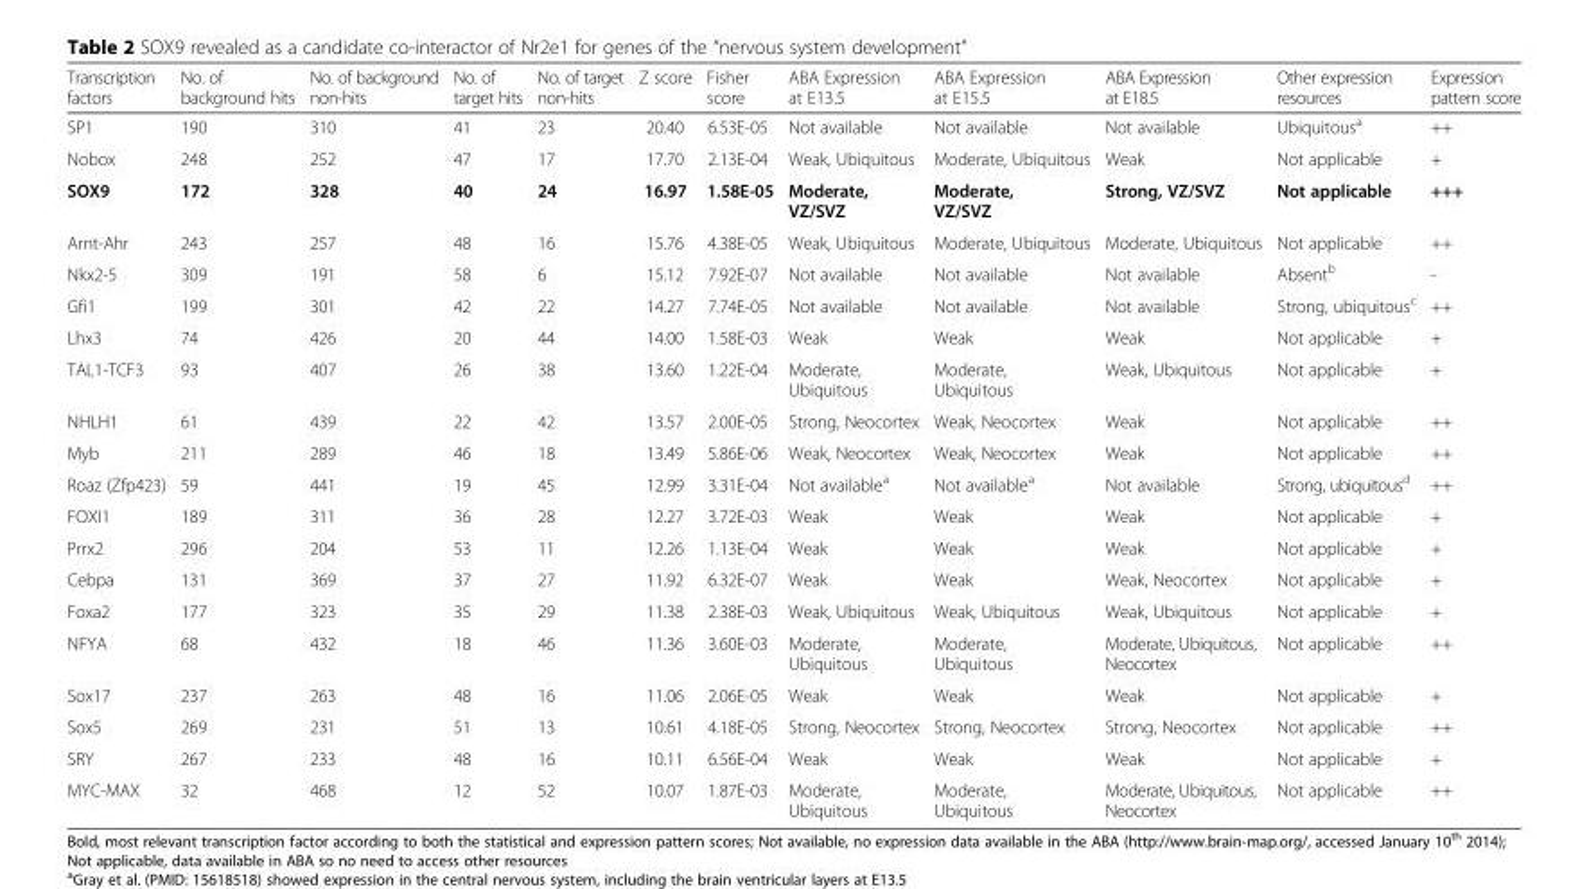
<table><thead><tr><td>Transcription factors</td><td>No. of background hits</td><td>No. of background non-hits</td><td>No. of target hits</td><td>No. of target non-hits</td><td>Z score</td><td>Fisher score</td><td>ABA Expression at E13.5</td><td>ABA Expression at E15.5</td><td>ABA Expression at E18.5</td><td>Other expression resources</td><td>Expression pattern score</td></tr></thead><tbody><tr><td>SP1</td><td>190</td><td>310</td><td>41</td><td>23</td><td>20.40</td><td>6.53E-05</td><td>Not available</td><td>Not available</td><td>Not available</td><td>Ubiquitous<sup>a</sup></td><td>++</td></tr><tr><td>Nobox</td><td>248</td><td>252</td><td>47</td><td>17</td><td>17.70</td><td>2.13E-04</td><td>Weak, Ubiquitous</td><td>Moderate, Ubiquitous</td><td>Weak</td><td>Not applicable</td><td>+</td></tr><tr><td>SOX9</td><td>172</td><td>328</td><td>40</td><td>24</td><td>16.97</td><td>1.58E-05</td><td>Moderate, VZ/SVZ</td><td>Moderate, VZ/SVZ</td><td>Strong, VZ/SVZ</td><td>Not applicable</td><td>+++</td></tr><tr><td>Arnt-Ahr</td><td>243</td><td>257</td><td>48</td><td>16</td><td>15.76</td><td>4.38E-05</td><td>Weak, Ubiquitous</td><td>Moderate, Ubiquitous</td><td>Moderate, Ubiquitous</td><td>Not applicable</td><td>++</td></tr><tr><td>Nkx2-5</td><td>309</td><td>191</td><td>58</td><td>6</td><td>15.12</td><td>7.92E-07</td><td>Not available</td><td>Not available</td><td>Not available</td><td>Absent<sup>b</sup></td><td>-</td></tr><tr><td>Gfi1</td><td>199</td><td>301</td><td>42</td><td>22</td><td>14.27</td><td>7.74E-05</td><td>Not available</td><td>Not available</td><td>Not available</td><td>Strong, ubiquitous<sup>c</sup></td><td>++</td></tr><tr><td>Lhx3</td><td>74</td><td>426</td><td>20</td><td>44</td><td>14.00</td><td>1.58E-03</td><td>Weak</td><td>Weak</td><td>Weak</td><td>Not applicable</td><td>+</td></tr><tr><td>TAL1-TCF3</td><td>93</td><td>407</td><td>26</td><td>38</td><td>13.60</td><td>1.22E-04</td><td>Moderate, Ubiquitous</td><td>Moderate, Ubiquitous</td><td>Weak, Ubiquitous</td><td>Not applicable</td><td>+</td></tr><tr><td>NHLH1</td><td>61</td><td>439</td><td>22</td><td>42</td><td>13.57</td><td>2.00E-05</td><td>Strong, Neocortex</td><td>Weak, Neocortex</td><td>Weak</td><td>Not applicable</td><td>++</td></tr><tr><td>Myb</td><td>211</td><td>289</td><td>46</td><td>18</td><td>13.49</td><td>5.86E-06</td><td>Weak, Neocortex</td><td>Weak, Neocortex</td><td>Weak</td><td>Not applicable</td><td>++</td></tr><tr><td>Roaz (Zfp423)</td><td>59</td><td>441</td><td>19</td><td>45</td><td>12.99</td><td>3.31E-04</td><td>Not available<sup>a</sup></td><td>Not available<sup>a</sup></td><td>Not available</td><td>Strong, ubiquitous<sup>d</sup></td><td>++</td></tr><tr><td>FOXI1</td><td>189</td><td>311</td><td>36</td><td>28</td><td>12.27</td><td>3.72E-03</td><td>Weak</td><td>Weak</td><td>Weak</td><td>Not applicable</td><td>+</td></tr><tr><td>Prrx2</td><td>296</td><td>204</td><td>53</td><td>11</td><td>12.26</td><td>1.13E-04</td><td>Weak</td><td>Weak</td><td>Weak</td><td>Not applicable</td><td>+</td></tr><tr><td>Cebpa</td><td>131</td><td>369</td><td>37</td><td>27</td><td>11.92</td><td>6.32E-07</td><td>Weak</td><td>Weak</td><td>Weak, Neocortex</td><td>Not applicable</td><td>+</td></tr><tr><td>Foxa2</td><td>177</td><td>323</td><td>35</td><td>29</td><td>11.38</td><td>2.38E-03</td><td>Weak, Ubiquitous</td><td>Weak, Ubiquitous</td><td>Weak, Ubiquitous</td><td>Not applicable</td><td>+</td></tr><tr><td>NFYA</td><td>68</td><td>432</td><td>18</td><td>46</td><td>11.36</td><td>3.60E-03</td><td>Moderate, Ubiquitous</td><td>Moderate, Ubiquitous</td><td>Moderate, Ubiquitous, Neocortex</td><td>Not applicable</td><td>++</td></tr><tr><td>Sox17</td><td>237</td><td>263</td><td>48</td><td>16</td><td>11.06</td><td>2.06E-05</td><td>Weak</td><td>Weak</td><td>Weak</td><td>Not applicable</td><td>+</td></tr><tr><td>Sox5</td><td>269</td><td>231</td><td>51</td><td>13</td><td>10.61</td><td>4.18E-05</td><td>Strong, Neocortex</td><td>Strong, Neocortex</td><td>Strong, Neocortex</td><td>Not applicable</td><td>++</td></tr><tr><td>SRY</td><td>267</td><td>233</td><td>48</td><td>16</td><td>10.11</td><td>6.56E-04</td><td>Weak</td><td>Weak</td><td>Weak</td><td>Not applicable</td><td>+</td></tr><tr><td>MYC-MAX</td><td>32</td><td>468</td><td>12</td><td>52</td><td>10.07</td><td>1.87E-03</td><td>Moderate, Ubiquitous</td><td>Moderate, Ubiquitous</td><td>Moderate, Ubiquitous, Neocortex</td><td>Not applicable</td><td>++</td></tr></tbody></table>